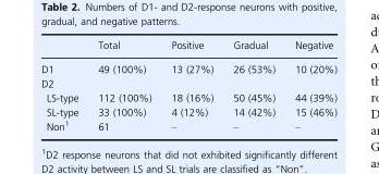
<table><thead><tr><td></td><td>Total</td><td>Positive</td><td>Gradual</td><td>Negative</td></tr></thead><tbody><tr><td>D1</td><td>49 (100%)</td><td>13 (27%)</td><td>26 (53%)</td><td>10 (20%)</td></tr><tr><td colspan="5">D2</td></tr><tr><td>LS-type</td><td>112 (100%)</td><td>18 (16%)</td><td>50 (45%)</td><td>44 (39%)</td></tr><tr><td>SL-type</td><td>33 (100%)</td><td>4 (12%)</td><td>14 (42%)</td><td>15 (46%)</td></tr><tr><td>Non<sup>1</sup></td><td>61</td><td>–</td><td>–</td><td>–</td></tr></tbody></table>